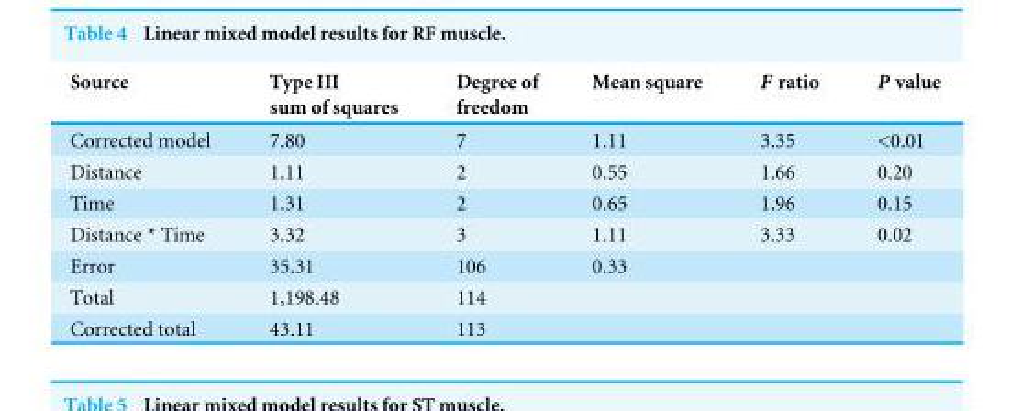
<table><thead><tr><td>Source</td><td>Type III sum of squares</td><td>Degree of freedom</td><td>Mean square</td><td>F ratio</td><td>P value</td></tr></thead><tbody><tr><td>Corrected model</td><td>7.80</td><td>7</td><td>1.11</td><td>3.35</td><td>&lt;0.01</td></tr><tr><td>Distance</td><td>1.11</td><td>2</td><td>0.55</td><td>1.66</td><td>0.20</td></tr><tr><td>Time</td><td>1.31</td><td>2</td><td>0.65</td><td>1.96</td><td>0.15</td></tr><tr><td>Distance * Time</td><td>3.32</td><td>3</td><td>1.11</td><td>3.33</td><td>0.02</td></tr><tr><td>Error</td><td>35.31</td><td>106</td><td>0.33</td><td></td><td></td></tr><tr><td>Total</td><td>1,198.48</td><td>114</td><td></td><td></td><td></td></tr><tr><td>Corrected total</td><td>43.11</td><td>113</td><td></td><td></td><td></td></tr></tbody></table>